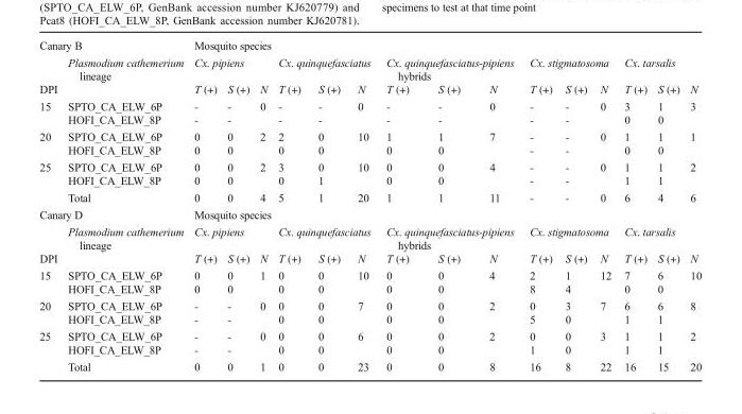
<table><tbody><tr><td colspan="2">Canary B</td><td colspan="15">Mosquito species</td></tr><tr><td></td><td rowspan="2">Plasmodium cathemerium lineage</td><td colspan="3">Cx. pipiens</td><td colspan="3">Cx. quinquefasciatus</td><td colspan="3">Cx. quinquefasciatus-pipiens hybrids</td><td colspan="3">Cx. stigmatosoma</td><td colspan="3">Cx. tarsalis</td></tr><tr><td>DPI</td><td>T (+)</td><td>S (+)</td><td>N</td><td>T (+)</td><td>S (+)</td><td>N</td><td>T (+)</td><td>S (+)</td><td>N</td><td>T (+)</td><td>S (+)</td><td>N</td><td>T (+)</td><td>S (+)</td><td>N</td></tr><tr><td rowspan="2">15</td><td>SPTO_CA_ELW_6P</td><td>-</td><td>-</td><td rowspan="2">0</td><td>-</td><td>-</td><td rowspan="2">0</td><td>-</td><td>-</td><td rowspan="2">0</td><td>-</td><td>-</td><td rowspan="2">0</td><td>3</td><td>1</td><td rowspan="2">3</td></tr><tr><td>HOFI_CA_ELW_8P</td><td>-</td><td>-</td><td>-</td><td>-</td><td>-</td><td>-</td><td>-</td><td>-</td><td>0</td><td>0</td></tr><tr><td rowspan="2">20</td><td>SPTO_CA_ELW_6P</td><td>0</td><td>0</td><td rowspan="2">2</td><td>2</td><td>0</td><td rowspan="2">10</td><td>1</td><td>1</td><td rowspan="2">7</td><td>-</td><td>-</td><td rowspan="2">0</td><td>1</td><td>1</td><td rowspan="2">1</td></tr><tr><td>HOFI_CA_ELW_8P</td><td>0</td><td>0</td><td>0</td><td>0</td><td>0</td><td>0</td><td>-</td><td>-</td><td>0</td><td>0</td></tr><tr><td rowspan="3">25</td><td>SPTO_CA_ELW_6P</td><td>0</td><td>0</td><td rowspan="2">2</td><td>3</td><td>0</td><td rowspan="2">10</td><td>0</td><td>0</td><td rowspan="2">4</td><td>-</td><td>-</td><td rowspan="2">0</td><td>1</td><td>1</td><td rowspan="2">2</td></tr><tr><td>HOFI_CA_ELW_8P</td><td>0</td><td>0</td><td>0</td><td>1</td><td>0</td><td>0</td><td>-</td><td>-</td><td>1</td><td>1</td></tr><tr><td>Total</td><td>0</td><td>0</td><td>4</td><td>5</td><td>1</td><td>20</td><td>1</td><td>1</td><td>11</td><td>-</td><td>-</td><td>0</td><td>6</td><td>4</td><td>6</td></tr><tr><td colspan="2">Canary D</td><td colspan="15">Mosquito species</td></tr><tr><td></td><td rowspan="2">Plasmodium cathemerium lineage</td><td colspan="3">Cx. pipiens</td><td colspan="3">Cx. quinquefasciatus</td><td colspan="3">Cx. quinquefasciatus-pipiens hybrids</td><td colspan="3">Cx. stigmatosoma</td><td colspan="3">Cx. tarsalis</td></tr><tr><td>DPI</td><td>T (+)</td><td>S (+)</td><td>N</td><td>T (+)</td><td>S (+)</td><td>N</td><td>T (+)</td><td>S (+)</td><td>N</td><td>T (+)</td><td>S (+)</td><td>N</td><td>T (+)</td><td>S (+)</td><td>N</td></tr><tr><td rowspan="2">15</td><td>SPTO_CA_ELW_6P</td><td>0</td><td>0</td><td rowspan="2">1</td><td>0</td><td>0</td><td rowspan="2">10</td><td>0</td><td>0</td><td rowspan="2">4</td><td>2</td><td>1</td><td rowspan="2">12</td><td>7</td><td>6</td><td rowspan="2">10</td></tr><tr><td>HOFI_CA_ELW_8P</td><td>0</td><td>0</td><td>0</td><td>0</td><td>0</td><td>0</td><td>8</td><td>4</td><td>0</td><td>0</td></tr><tr><td rowspan="2">20</td><td>SPTO_CA_ELW_6P</td><td>-</td><td>-</td><td rowspan="2">0</td><td>0</td><td>0</td><td rowspan="2">7</td><td>0</td><td>0</td><td rowspan="2">2</td><td>0</td><td>3</td><td rowspan="2">7</td><td>6</td><td>6</td><td rowspan="2">8</td></tr><tr><td>HOFI_CA_ELW_8P</td><td>-</td><td>-</td><td>0</td><td>0</td><td>0</td><td>0</td><td>5</td><td>0</td><td>1</td><td>1</td></tr><tr><td rowspan="3">25</td><td>SPTO_CA_ELW_6P</td><td>-</td><td>-</td><td rowspan="2">0</td><td>0</td><td>0</td><td rowspan="2">6</td><td>0</td><td>0</td><td rowspan="2">2</td><td>0</td><td>0</td><td rowspan="2">3</td><td>1</td><td>1</td><td rowspan="2">2</td></tr><tr><td>HOFI_CA_ELW_8P</td><td>-</td><td>-</td><td>0</td><td>0</td><td>0</td><td>0</td><td>1</td><td>0</td><td>1</td><td>1</td></tr><tr><td>Total</td><td>0</td><td>0</td><td>1</td><td>0</td><td>0</td><td>23</td><td>0</td><td>0</td><td>8</td><td>16</td><td>8</td><td>22</td><td>16</td><td>15</td><td>20</td></tr></tbody></table>